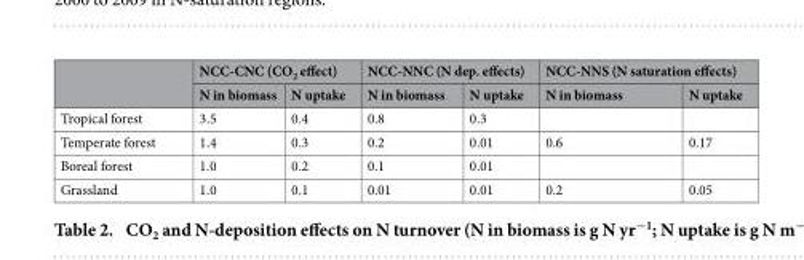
<table><thead><tr><td rowspan="2"></td><td colspan="2">NCC-CNC (CO<sub>2</sub> effect)</td><td colspan="2">NCC-NNC (N dep. effects)</td><td colspan="2">NCC-NNS (N saturation effects)</td></tr><tr><td>N in biomass</td><td>N uptake</td><td>N in biomass</td><td>N uptake</td><td>N in biomass</td><td>N uptake</td></tr></thead><tbody><tr><td>Tropical forest</td><td>3.5</td><td>0.4</td><td>0.8</td><td>0.3</td><td></td><td></td></tr><tr><td>Temperate forest</td><td>1.4</td><td>0.3</td><td>0.2</td><td>0.01</td><td>0.6</td><td>0.17</td></tr><tr><td>Boreal forest</td><td>1.0</td><td>0.2</td><td>0.1</td><td>0.01</td><td></td><td></td></tr><tr><td>Grassland</td><td>1.0</td><td>0.1</td><td>0.01</td><td>0.01</td><td>0.2</td><td>0.05</td></tr></tbody></table>